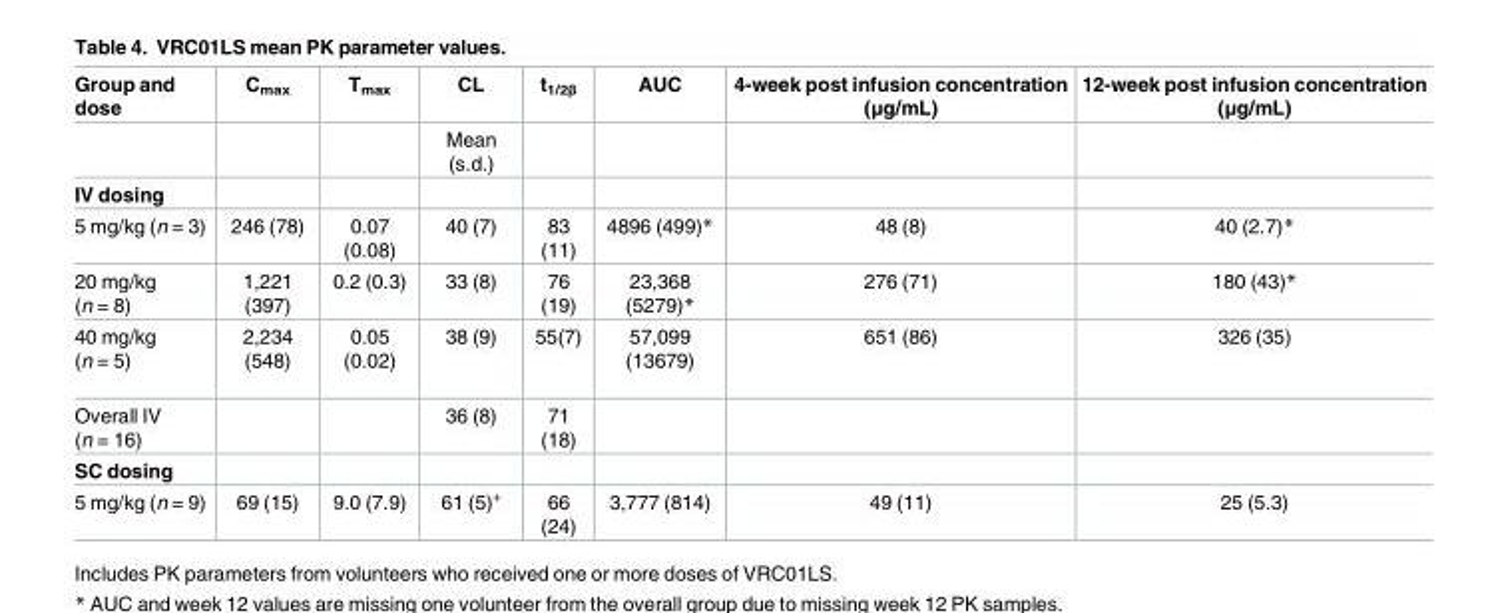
<table><thead><tr><td>Group and dose</td><td>C<sub>max</sub></td><td>T<sub>max</sub></td><td>CL</td><td>t<sub>1/2β</sub></td><td>AUC</td><td>4-week post infusion concentration (μg/mL)</td><td>12-week post infusion concentration (μg/mL)</td></tr></thead><tbody><tr><td></td><td></td><td></td><td>Mean (s.d.)</td><td></td><td></td><td></td><td></td></tr><tr><td colspan="8">IV dosing</td></tr><tr><td>5 mg/kg (n = 3)</td><td>246 (78)</td><td>0.07 (0.08)</td><td>40 (7)</td><td>83 (11)</td><td>4896 (499)*</td><td>48 (8)</td><td>40 (2.7)*</td></tr><tr><td>20 mg/kg (n = 8)</td><td>1,221 (397)</td><td>0.2 (0.3)</td><td>33 (8)</td><td>76 (19)</td><td>23,368 (5279)*</td><td>276 (71)</td><td>180 (43)*</td></tr><tr><td>40 mg/kg (n = 5)</td><td>2,234 (548)</td><td>0.05 (0.02)</td><td>38 (9)</td><td>55(7)</td><td>57,099 (13679)</td><td>651 (86)</td><td>326 (35)</td></tr><tr><td>Overall IV (n = 16)</td><td></td><td></td><td>36 (8)</td><td>71 (18)</td><td></td><td></td><td></td></tr><tr><td colspan="8">SC dosing</td></tr><tr><td>5 mg/kg (n = 9)</td><td>69 (15)</td><td>9.0 (7.9)</td><td>61 (5)<sup>+</sup></td><td>66 (24)</td><td>3,777 (814)</td><td>49 (11)</td><td>25 (5.3)</td></tr></tbody></table>